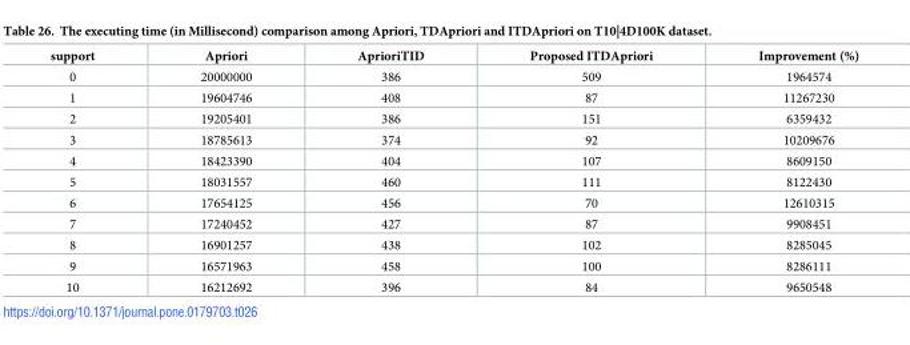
<table><thead><tr><td>support</td><td>Apriori</td><td>AprioriTID</td><td>Proposed ITDApriori</td><td>Improvement (%)</td></tr></thead><tbody><tr><td>0</td><td>20000000</td><td>386</td><td>509</td><td>1964574</td></tr><tr><td>1</td><td>19604746</td><td>408</td><td>87</td><td>11267230</td></tr><tr><td>2</td><td>19205401</td><td>386</td><td>151</td><td>6359432</td></tr><tr><td>3</td><td>18785613</td><td>374</td><td>92</td><td>10209676</td></tr><tr><td>4</td><td>18423390</td><td>404</td><td>107</td><td>8609150</td></tr><tr><td>5</td><td>18031557</td><td>460</td><td>111</td><td>8122430</td></tr><tr><td>6</td><td>17654125</td><td>456</td><td>70</td><td>12610315</td></tr><tr><td>7</td><td>17240452</td><td>427</td><td>87</td><td>9908451</td></tr><tr><td>8</td><td>16901257</td><td>438</td><td>102</td><td>8285045</td></tr><tr><td>9</td><td>16571963</td><td>458</td><td>100</td><td>8286111</td></tr><tr><td>10</td><td>16212692</td><td>396</td><td>84</td><td>9650548</td></tr></tbody></table>